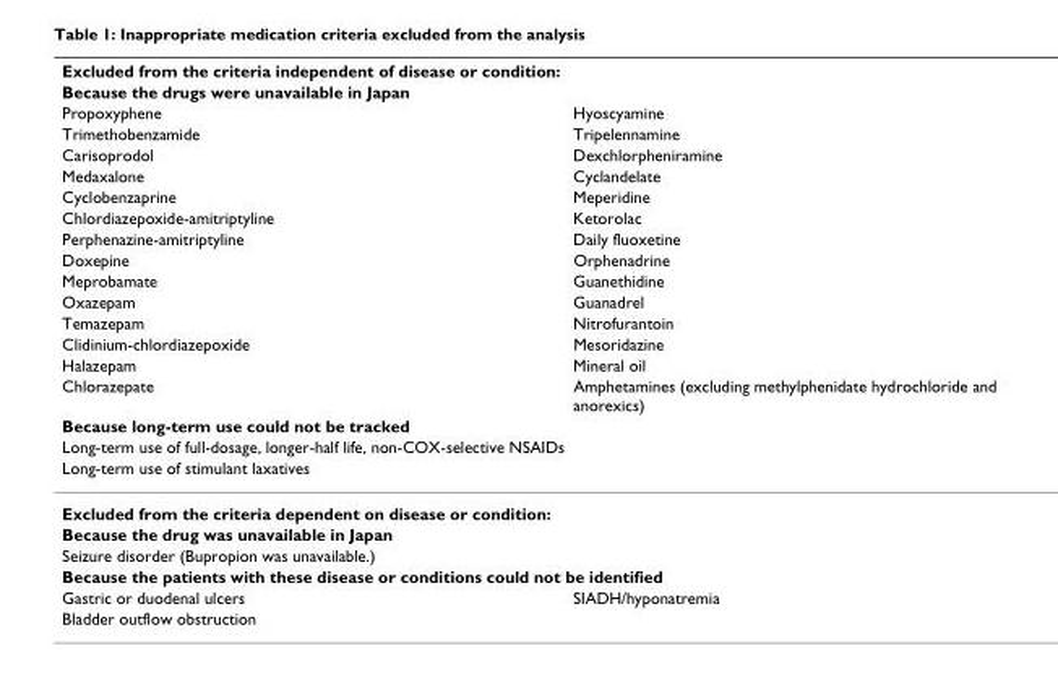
<table><thead><tr><td rowspan="2" colspan="2">Excluded from the criteria independent of disease or condition: Because the drugs were unavailable in Japan</td></tr><tr></tr><tr><td rowspan="14">Propoxyphene Trimethobenzamide Carisoprodol Medaxalone Cyclobenzaprine Chlordiazepoxide-amitriptyline Perphenazine-amitriptyline Doxepine Meprobamate Oxazepam Temazepam Clidinium-chlordiazepoxide Halazepam Chlorazepate</td><td rowspan="14">Hyoscyamine Tripelennamine Dexchlorpheniramine Cyclandelate Meperidine Ketorolac Daily fluoxetine Orphenadrine Guanethidine Guanadrel Nitrofurantoin Mesoridazine Mineral oil Amphetamines (excluding methylphenidate hydrochloride and anorexics)</td></tr><tr></tr><tr></tr><tr></tr><tr></tr><tr></tr><tr></tr><tr></tr><tr></tr><tr></tr><tr></tr><tr></tr><tr></tr><tr></tr><tr><td rowspan="3" colspan="2">Because long-term use could not be tracked Long-term use of full-dosage, longer-half life, non-COX-selective NSAIDs Long-term use of stimulant laxatives</td></tr><tr></tr><tr></tr></thead><tbody><tr><td colspan="2">Excluded from the criteria dependent on disease or condition:</td></tr><tr><td colspan="2">Because the drug was unavailable in Japan</td></tr><tr><td colspan="2">Seizure disorder (Bupropion was unavailable.)</td></tr><tr><td colspan="2">Because the patients with these disease or conditions could not be identified</td></tr><tr><td>Gastric or duodenal ulcers</td><td>SIADH/hyponatremia</td></tr><tr><td>Bladder outflow obstruction</td><td></td></tr></tbody></table>